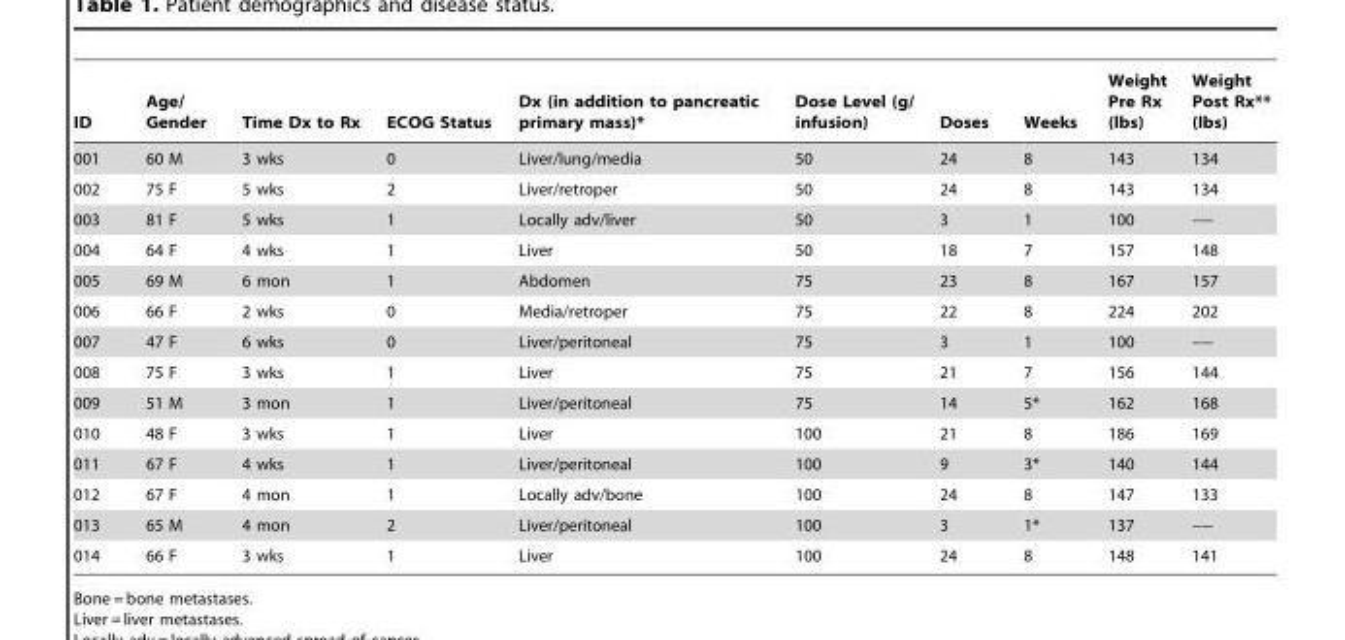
<table><thead><tr><td>ID</td><td>Age/ Gender</td><td>Time Dx to Rx</td><td>ECOG Status</td><td>Dx (in addition to pancreatic primary mass)*</td><td>Dose Level (g/ infusion)</td><td>Doses</td><td>Weeks</td><td>Weight Pre Rx (lbs)</td><td>Weight Post Rx** (lbs)</td></tr></thead><tbody><tr><td>001</td><td>60 M</td><td>3 wks</td><td>0</td><td>Liver/lung/media</td><td>50</td><td>24</td><td>8</td><td>143</td><td>134</td></tr><tr><td>002</td><td>75 F</td><td>5 wks</td><td>2</td><td>Liver/retroper</td><td>50</td><td>24</td><td>8</td><td>143</td><td>134</td></tr><tr><td>003</td><td>81 F</td><td>5 wks</td><td>1</td><td>Locally adv/liver</td><td>50</td><td>3</td><td>1</td><td>100</td><td>----</td></tr><tr><td>004</td><td>64 F</td><td>4 wks</td><td>1</td><td>Liver</td><td>50</td><td>18</td><td>7</td><td>157</td><td>148</td></tr><tr><td>005</td><td>69 M</td><td>6 mon</td><td>1</td><td>Abdomen</td><td>75</td><td>23</td><td>8</td><td>167</td><td>157</td></tr><tr><td>006</td><td>66 F</td><td>2 wks</td><td>0</td><td>Media/retroper</td><td>75</td><td>22</td><td>8</td><td>224</td><td>202</td></tr><tr><td>007</td><td>47 F</td><td>6 wks</td><td>0</td><td>Liver/peritoneal</td><td>75</td><td>3</td><td>1</td><td>100</td><td>----</td></tr><tr><td>008</td><td>75 F</td><td>3 wks</td><td>1</td><td>Liver</td><td>75</td><td>21</td><td>7</td><td>156</td><td>144</td></tr><tr><td>009</td><td>51 M</td><td>3 mon</td><td>1</td><td>Liver/peritoneal</td><td>75</td><td>14</td><td>5*</td><td>162</td><td>168</td></tr><tr><td>010</td><td>48 F</td><td>3 wks</td><td>1</td><td>Liver</td><td>100</td><td>21</td><td>8</td><td>186</td><td>169</td></tr><tr><td>011</td><td>67 F</td><td>4 wks</td><td>1</td><td>Liver/peritoneal</td><td>100</td><td>9</td><td>3*</td><td>140</td><td>144</td></tr><tr><td>012</td><td>67 F</td><td>4 mon</td><td>1</td><td>Locally adv/bone</td><td>100</td><td>24</td><td>8</td><td>147</td><td>133</td></tr><tr><td>013</td><td>65 M</td><td>4 mon</td><td>2</td><td>Liver/peritoneal</td><td>100</td><td>3</td><td>1*</td><td>137</td><td>----</td></tr><tr><td>014</td><td>66 F</td><td>3 wks</td><td>1</td><td>Liver</td><td>100</td><td>24</td><td>8</td><td>148</td><td>141</td></tr></tbody></table>